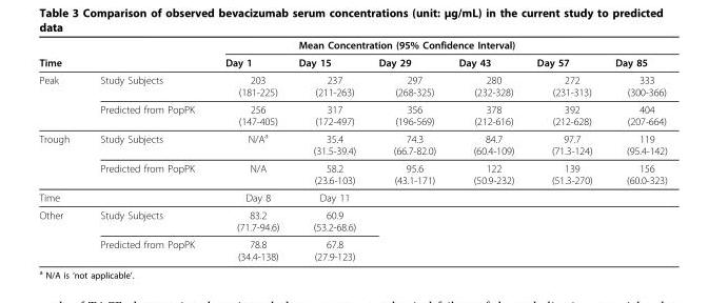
<table><thead><tr><td rowspan="2">Time</td><td rowspan="2"></td><td rowspan="2">Day 1</td><td colspan="4">Mean Concentration (95% Confidence Interval)</td><td rowspan="2">Day 85</td></tr><tr><td>Day 15</td><td>Day 29</td><td>Day 43</td><td>Day 57</td></tr></thead><tbody><tr><td rowspan="2">Peak</td><td>Study Subjects</td><td>203 (181-225)</td><td>237 (211-263)</td><td>297 (268-325)</td><td>280 (232-328)</td><td>272 (231-313)</td><td>333 (300-366)</td></tr><tr><td>Predicted from PopPK</td><td>256 (147-405)</td><td>317 (172-497)</td><td>356 (196-569)</td><td>378 (212-616)</td><td>392 (212-628)</td><td>404 (207-664)</td></tr><tr><td rowspan="2">Trough</td><td>Study Subjects</td><td>N/A<sup>a</sup></td><td>35.4 (31.5-39.4)</td><td>74.3 (66.7-82.0)</td><td>84.7 (60.4-109)</td><td>97.7 (71.3-124)</td><td>119 (95.4-142)</td></tr><tr><td>Predicted from PopPK</td><td>N/A</td><td>58.2 (23.6-103)</td><td>95.6 (43.1-171)</td><td>122 (50.9-232)</td><td>139 (51.3-270)</td><td>156 (60.0-323)</td></tr><tr><td>Time</td><td></td><td>Day 8</td><td>Day 11</td><td></td><td></td><td></td><td></td></tr><tr><td rowspan="2">Other</td><td>Study Subjects</td><td>83.2 (71.7-94.6)</td><td>60.9 (53.2-68.6)</td><td></td><td></td><td></td><td></td></tr><tr><td>Predicted from PopPK</td><td>78.8 (34.4-138)</td><td>67.8 (27.9-123)</td><td></td><td></td><td></td><td></td></tr></tbody></table>